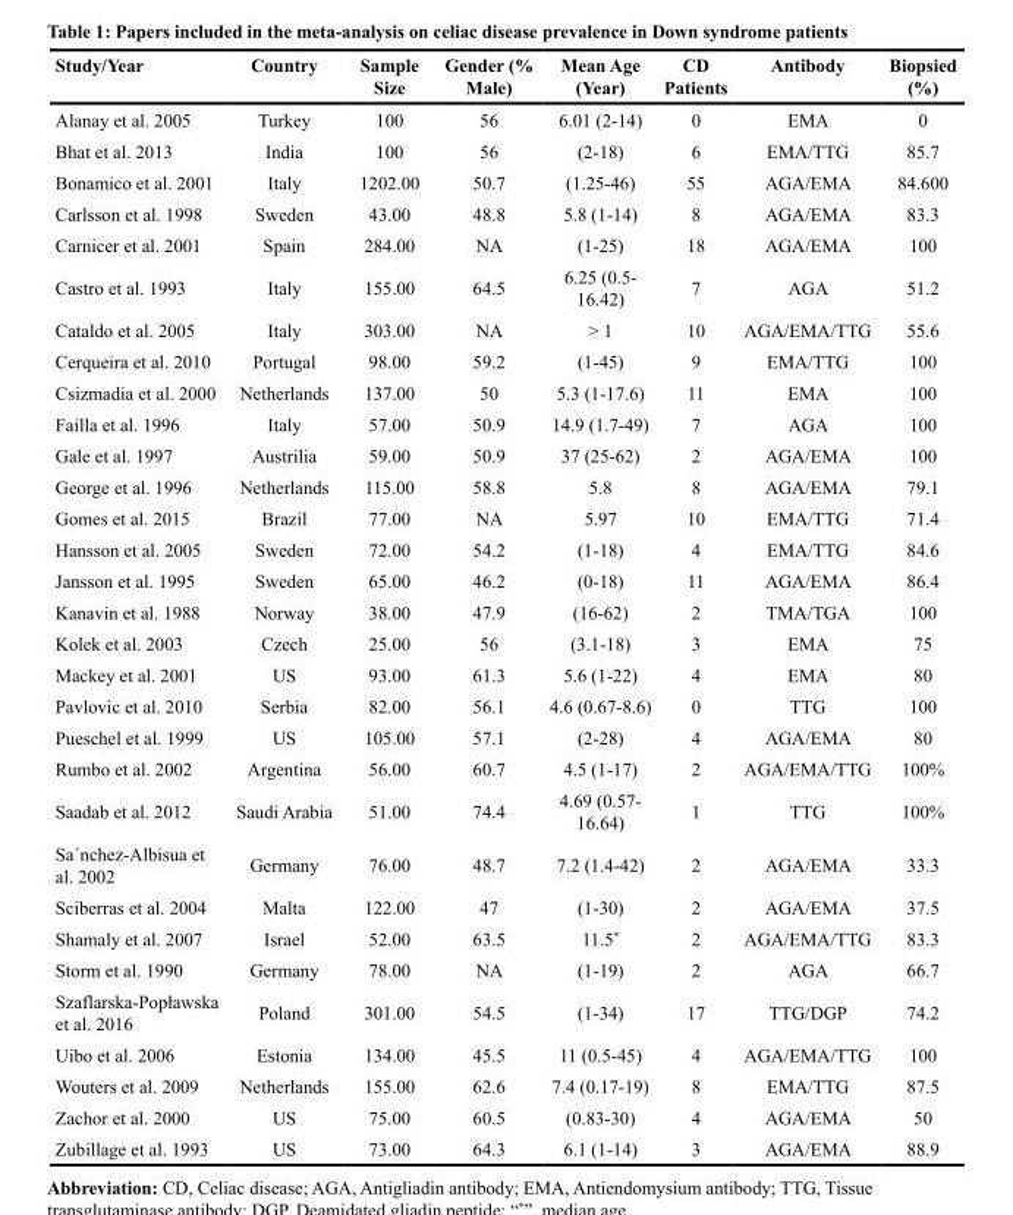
<table><thead><tr><td>Study/Year</td><td>Country</td><td>Sample Size</td><td>Gender (% Male)</td><td>Mean Age (Year)</td><td>CD Patients</td><td>Antibody</td><td>Biopsied (%)</td></tr></thead><tbody><tr><td>Alanay et al. 2005</td><td>Turkey</td><td>100</td><td>56</td><td>6.01 (2-14)</td><td>0</td><td>EMA</td><td>0</td></tr><tr><td>Bhat et al. 2013</td><td>India</td><td>100</td><td>56</td><td>(2-18)</td><td>6</td><td>EMA/TTG</td><td>85.7</td></tr><tr><td>Bonamico et al. 2001</td><td>Italy</td><td>1202.00</td><td>50.7</td><td>(1.25-46)</td><td>55</td><td>AGA/EMA</td><td>84.600</td></tr><tr><td>Carlsson et al. 1998</td><td>Sweden</td><td>43.00</td><td>48.8</td><td>5.8 (1-14)</td><td>8</td><td>AGA/EMA</td><td>83.3</td></tr><tr><td>Carnicer et al. 2001</td><td>Spain</td><td>284.00</td><td>NA</td><td>(1-25)</td><td>18</td><td>AGA/EMA</td><td>100</td></tr><tr><td>Castro et al. 1993</td><td>Italy</td><td>155.00</td><td>64.5</td><td>6.25 (0.5- 16.42)</td><td>7</td><td>AGA</td><td>51.2</td></tr><tr><td>Cataldo et al. 2005</td><td>Italy</td><td>303.00</td><td>NA</td><td>&gt; 1</td><td>10</td><td>AGA/EMA/TTG</td><td>55.6</td></tr><tr><td>Cerqueira et al. 2010</td><td>Portugal</td><td>98.00</td><td>59.2</td><td>(1-45)</td><td>9</td><td>EMA/TTG</td><td>100</td></tr><tr><td>Csizmadia et al. 2000</td><td>Netherlands</td><td>137.00</td><td>50</td><td>5.3 (1-17.6)</td><td>11</td><td>EMA</td><td>100</td></tr><tr><td>Failla et al. 1996</td><td>Italy</td><td>57.00</td><td>50.9</td><td>14.9 (1.7-49)</td><td>7</td><td>AGA</td><td>100</td></tr><tr><td>Gale et al. 1997</td><td>Austrilia</td><td>59.00</td><td>50.9</td><td>37 (25-62)</td><td>2</td><td>AGA/EMA</td><td>100</td></tr><tr><td>George et al. 1996</td><td>Netherlands</td><td>115.00</td><td>58.8</td><td>5.8</td><td>8</td><td>AGA/EMA</td><td>79.1</td></tr><tr><td>Gomes et al. 2015</td><td>Brazil</td><td>77.00</td><td>NA</td><td>5.97</td><td>10</td><td>EMA/TTG</td><td>71.4</td></tr><tr><td>Hansson et al. 2005</td><td>Sweden</td><td>72.00</td><td>54.2</td><td>(1-18)</td><td>4</td><td>EMA/TTG</td><td>84.6</td></tr><tr><td>Jansson et al. 1995</td><td>Sweden</td><td>65.00</td><td>46.2</td><td>(0-18)</td><td>11</td><td>AGA/EMA</td><td>86.4</td></tr><tr><td>Kanavin et al. 1988</td><td>Norway</td><td>38.00</td><td>47.9</td><td>(16-62)</td><td>2</td><td>TMA/TGA</td><td>100</td></tr><tr><td>Kolek et al. 2003</td><td>Czech</td><td>25.00</td><td>56</td><td>(3.1-18)</td><td>3</td><td>EMA</td><td>75</td></tr><tr><td>Mackey et al. 2001</td><td>US</td><td>93.00</td><td>61.3</td><td>5.6 (1-22)</td><td>4</td><td>EMA</td><td>80</td></tr><tr><td>Pavlovic et al. 2010</td><td>Serbia</td><td>82.00</td><td>56.1</td><td>4.6 (0.67-8.6)</td><td>0</td><td>TTG</td><td>100</td></tr><tr><td>Pueschel et al. 1999</td><td>US</td><td>105.00</td><td>57.1</td><td>(2-28)</td><td>4</td><td>AGA/EMA</td><td>80</td></tr><tr><td>Rumbo et al. 2002</td><td>Argentina</td><td>56.00</td><td>60.7</td><td>4.5 (1-17)</td><td>2</td><td>AGA/EMA/TTG</td><td>100%</td></tr><tr><td>Saadab et al. 2012</td><td>Saudi Arabia</td><td>51.00</td><td>74.4</td><td>4.69 (0.57- 16.64)</td><td>1</td><td>TTG</td><td>100%</td></tr><tr><td>Sa´nchez-Albisua et al. 2002</td><td>Germany</td><td>76.00</td><td>48.7</td><td>7.2 (1.4-42)</td><td>2</td><td>AGA/EMA</td><td>33.3</td></tr><tr><td>Sciberras et al. 2004</td><td>Malta</td><td>122.00</td><td>47</td><td>(1-30)</td><td>2</td><td>AGA/EMA</td><td>37.5</td></tr><tr><td>Shamaly et al. 2007</td><td>Israel</td><td>52.00</td><td>63.5</td><td>11.5*</td><td>2</td><td>AGA/EMA/TTG</td><td>83.3</td></tr><tr><td>Storm et al. 1990</td><td>Germany</td><td>78.00</td><td>NA</td><td>(1-19)</td><td>2</td><td>AGA</td><td>66.7</td></tr><tr><td>Szaflarska-Popławska et al. 2016</td><td>Poland</td><td>301.00</td><td>54.5</td><td>(1-34)</td><td>17</td><td>TTG/DGP</td><td>74.2</td></tr><tr><td>Uibo et al. 2006</td><td>Estonia</td><td>134.00</td><td>45.5</td><td>11 (0.5-45)</td><td>4</td><td>AGA/EMA/TTG</td><td>100</td></tr><tr><td>Wouters et al. 2009</td><td>Netherlands</td><td>155.00</td><td>62.6</td><td>7.4 (0.17-19)</td><td>8</td><td>EMA/TTG</td><td>87.5</td></tr><tr><td>Zachor et al. 2000</td><td>US</td><td>75.00</td><td>60.5</td><td>(0.83-30)</td><td>4</td><td>AGA/EMA</td><td>50</td></tr><tr><td>Zubillage et al. 1993</td><td>US</td><td>73.00</td><td>64.3</td><td>6.1 (1-14)</td><td>3</td><td>AGA/EMA</td><td>88.9</td></tr></tbody></table>